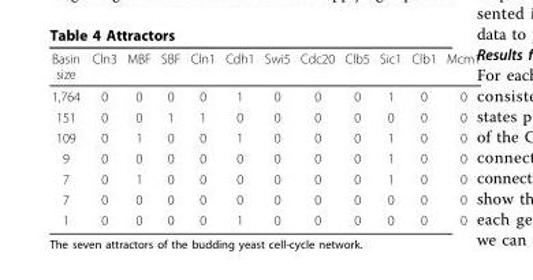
<table><thead><tr><td>Basin size</td><td>Cln3</td><td>MBF</td><td>SBF</td><td>Cln1</td><td>Cdh1</td><td>Swi5</td><td>Cdc20</td><td>Clb5</td><td>Sic1</td><td>Clb1</td><td>Mcm1</td></tr></thead><tbody><tr><td>1,764</td><td>0</td><td>0</td><td>0</td><td>0</td><td>1</td><td>0</td><td>0</td><td>0</td><td>1</td><td>0</td><td>0</td></tr><tr><td>151</td><td>0</td><td>0</td><td>1</td><td>1</td><td>0</td><td>0</td><td>0</td><td>0</td><td>0</td><td>0</td><td>0</td></tr><tr><td>109</td><td>0</td><td>1</td><td>0</td><td>0</td><td>1</td><td>0</td><td>0</td><td>0</td><td>1</td><td>0</td><td>0</td></tr><tr><td>9</td><td>0</td><td>0</td><td>0</td><td>0</td><td>0</td><td>0</td><td>0</td><td>0</td><td>1</td><td>0</td><td>0</td></tr><tr><td>7</td><td>0</td><td>1</td><td>0</td><td>0</td><td>0</td><td>0</td><td>0</td><td>0</td><td>1</td><td>0</td><td>0</td></tr><tr><td>7</td><td>0</td><td>0</td><td>0</td><td>0</td><td>0</td><td>0</td><td>0</td><td>0</td><td>0</td><td>0</td><td>0</td></tr><tr><td>1</td><td>0</td><td>0</td><td>0</td><td>0</td><td>1</td><td>0</td><td>0</td><td>0</td><td>0</td><td>0</td><td>0</td></tr></tbody></table>